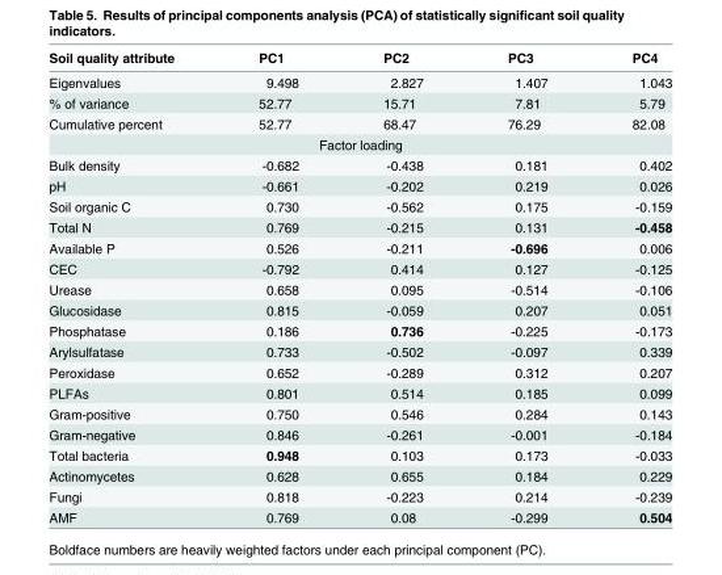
<table><thead><tr><td>Soil quality attribute</td><td>PC1</td><td>PC2</td><td>PC3</td><td>PC4</td></tr></thead><tbody><tr><td>Eigenvalues</td><td>9.498</td><td>2.827</td><td>1.407</td><td>1.043</td></tr><tr><td>% of variance</td><td>52.77</td><td>15.71</td><td>7.81</td><td>5.79</td></tr><tr><td>Cumulative percent</td><td>52.77</td><td>68.47</td><td>76.29</td><td>82.08</td></tr><tr><td colspan="5">Factor loading</td></tr><tr><td>Bulk density</td><td>-0.682</td><td>-0.438</td><td>0.181</td><td>0.402</td></tr><tr><td>pH</td><td>-0.661</td><td>-0.202</td><td>0.219</td><td>0.026</td></tr><tr><td>Soil organic C</td><td>0.730</td><td>-0.562</td><td>0.175</td><td>-0.159</td></tr><tr><td>Total N</td><td>0.769</td><td>-0.215</td><td>0.131</td><td>-0.458</td></tr><tr><td>Available P</td><td>0.526</td><td>-0.211</td><td>-0.696</td><td>0.006</td></tr><tr><td>CEC</td><td>-0.792</td><td>0.414</td><td>0.127</td><td>-0.125</td></tr><tr><td>Urease</td><td>0.658</td><td>0.095</td><td>-0.514</td><td>-0.106</td></tr><tr><td>Glucosidase</td><td>0.815</td><td>-0.059</td><td>0.207</td><td>0.051</td></tr><tr><td>Phosphatase</td><td>0.186</td><td>0.736</td><td>-0.225</td><td>-0.173</td></tr><tr><td>Arylsulfatase</td><td>0.733</td><td>-0.502</td><td>-0.097</td><td>0.339</td></tr><tr><td>Peroxidase</td><td>0.652</td><td>-0.289</td><td>0.312</td><td>0.207</td></tr><tr><td>PLFAs</td><td>0.801</td><td>0.514</td><td>0.185</td><td>0.099</td></tr><tr><td>Gram-positive</td><td>0.750</td><td>0.546</td><td>0.284</td><td>0.143</td></tr><tr><td>Gram-negative</td><td>0.846</td><td>-0.261</td><td>-0.001</td><td>-0.184</td></tr><tr><td>Total bacteria</td><td>0.948</td><td>0.103</td><td>0.173</td><td>-0.033</td></tr><tr><td>Actinomycetes</td><td>0.628</td><td>0.655</td><td>0.184</td><td>0.229</td></tr><tr><td>Fungi</td><td>0.818</td><td>-0.223</td><td>0.214</td><td>-0.239</td></tr><tr><td>AMF</td><td>0.769</td><td>0.08</td><td>-0.299</td><td>0.504</td></tr></tbody></table>